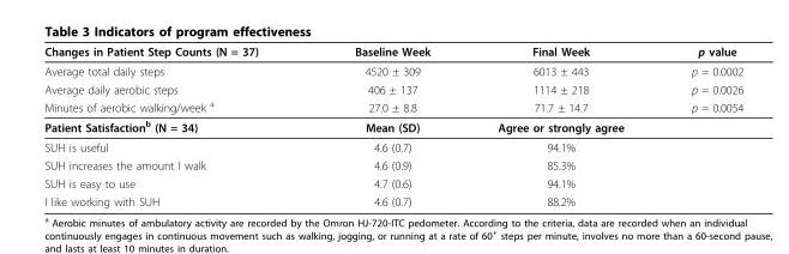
<table><thead><tr><td>Changes in Patient Step Counts (N = 37)</td><td>Baseline Week</td><td>Final Week</td><td>p value</td></tr></thead><tbody><tr><td>Average total daily steps</td><td>4520 ± 309</td><td>6013 ± 443</td><td>p = 0.0002</td></tr><tr><td>Average daily aerobic steps</td><td>406 ± 137</td><td>1114 ± 218</td><td>p = 0.0026</td></tr><tr><td>Minutes of aerobic walking/week <sup>a</sup></td><td>27.0 ± 8.8</td><td>71.7 ± 14.7</td><td>p = 0.0054</td></tr><tr><td>Patient Satisfaction<sup>b</sup> (N = 34)</td><td>Mean (SD)</td><td>Agree or strongly agree</td><td></td></tr><tr><td>SUH is useful</td><td>4.6 (0.7)</td><td>94.1%</td><td></td></tr><tr><td>SUH increases the amount I walk</td><td>4.6 (0.9)</td><td>85.3%</td><td></td></tr><tr><td>SUH is easy to use</td><td>4.7 (0.6)</td><td>94.1%</td><td></td></tr><tr><td>I like working with SUH</td><td>4.6 (0.7)</td><td>88.2%</td><td></td></tr></tbody></table>